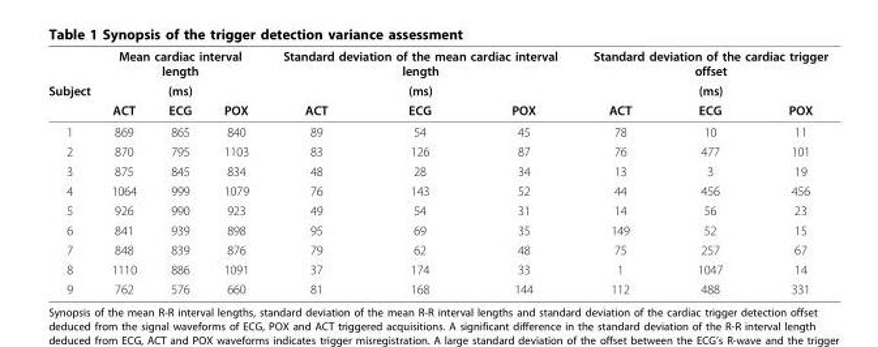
<table><thead><tr><td rowspan="3">Subject</td><td rowspan="2" colspan="3">Mean cardiac interval length (ms)</td><td rowspan="2" colspan="3">Standard deviation of the mean cardiac interval length (ms)</td><td rowspan="2" colspan="3">Standard deviation of the cardiac trigger offset (ms)</td></tr><tr></tr><tr><td>ACT</td><td>ECG</td><td>POX</td><td>ACT</td><td>ECG</td><td>POX</td><td>ACT</td><td>ECG</td><td>POX</td></tr></thead><tbody><tr><td>1</td><td>869</td><td>865</td><td>840</td><td>89</td><td>54</td><td>45</td><td>78</td><td>10</td><td>11</td></tr><tr><td>2</td><td>870</td><td>795</td><td>1103</td><td>83</td><td>126</td><td>87</td><td>76</td><td>477</td><td>101</td></tr><tr><td>3</td><td>875</td><td>845</td><td>834</td><td>48</td><td>28</td><td>34</td><td>13</td><td>3</td><td>19</td></tr><tr><td>4</td><td>1064</td><td>999</td><td>1079</td><td>76</td><td>143</td><td>52</td><td>44</td><td>456</td><td>456</td></tr><tr><td>5</td><td>926</td><td>990</td><td>923</td><td>49</td><td>54</td><td>31</td><td>14</td><td>56</td><td>23</td></tr><tr><td>6</td><td>841</td><td>939</td><td>898</td><td>95</td><td>69</td><td>35</td><td>149</td><td>52</td><td>15</td></tr><tr><td>7</td><td>848</td><td>839</td><td>876</td><td>79</td><td>62</td><td>48</td><td>75</td><td>257</td><td>67</td></tr><tr><td>8</td><td>1110</td><td>886</td><td>1091</td><td>37</td><td>174</td><td>33</td><td>1</td><td>1047</td><td>14</td></tr><tr><td>9</td><td>762</td><td>576</td><td>660</td><td>81</td><td>168</td><td>144</td><td>112</td><td>488</td><td>331</td></tr></tbody></table>